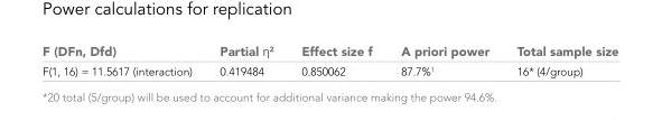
<table><thead><tr><td>F (DFn, Dfd)</td><td>Partial η<sup>2</sup></td><td>Effect size f</td><td>A priori power</td><td>Total sample size</td></tr></thead><tbody><tr><td>F(1, 16) = 11.5617 (interaction)</td><td>0.419484</td><td>0.850062</td><td>87.7%<sup>1</sup></td><td>16* (4/group)</td></tr></tbody></table>